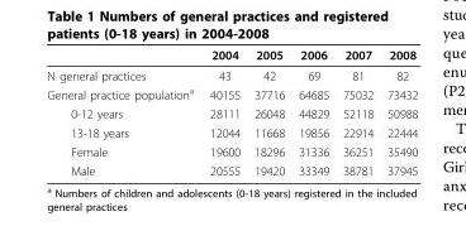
<table><thead><tr><td></td><td>2004</td><td>2005</td><td>2006</td><td>2007</td><td>2008</td></tr></thead><tbody><tr><td>N general practices</td><td>43</td><td>42</td><td>69</td><td>81</td><td>82</td></tr><tr><td>General practice population<sup>a</sup></td><td>40155</td><td>37716</td><td>64685</td><td>75032</td><td>73432</td></tr><tr><td>0-12 years</td><td>28111</td><td>26048</td><td>44829</td><td>52118</td><td>50988</td></tr><tr><td>13-18 years</td><td>12044</td><td>11668</td><td>19856</td><td>22914</td><td>22444</td></tr><tr><td>Female</td><td>19600</td><td>18296</td><td>31336</td><td>36251</td><td>35490</td></tr><tr><td>Male</td><td>20555</td><td>19420</td><td>33349</td><td>38781</td><td>37945</td></tr></tbody></table>